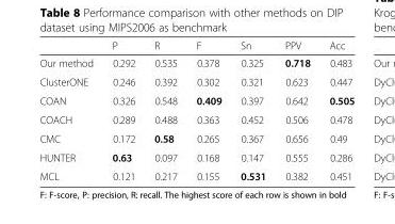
<table><thead><tr><td></td><td>P</td><td>R</td><td>F</td><td>Sn</td><td>PPV</td><td>Acc</td></tr></thead><tbody><tr><td>Our method</td><td>0.292</td><td>0.535</td><td>0.378</td><td>0.325</td><td>0.718</td><td>0.483</td></tr><tr><td>ClusterONE</td><td>0.246</td><td>0.392</td><td>0.302</td><td>0.321</td><td>0.623</td><td>0.447</td></tr><tr><td>COAN</td><td>0.326</td><td>0.548</td><td>0.409</td><td>0.397</td><td>0.642</td><td>0.505</td></tr><tr><td>COACH</td><td>0.289</td><td>0.488</td><td>0.363</td><td>0.452</td><td>0.506</td><td>0.478</td></tr><tr><td>CMC</td><td>0.172</td><td>0.58</td><td>0.265</td><td>0.367</td><td>0.656</td><td>0.49</td></tr><tr><td>HUNTER</td><td>0.63</td><td>0.097</td><td>0.168</td><td>0.147</td><td>0.555</td><td>0.286</td></tr><tr><td>MCL</td><td>0.121</td><td>0.217</td><td>0.155</td><td>0.531</td><td>0.382</td><td>0.451</td></tr></tbody></table>